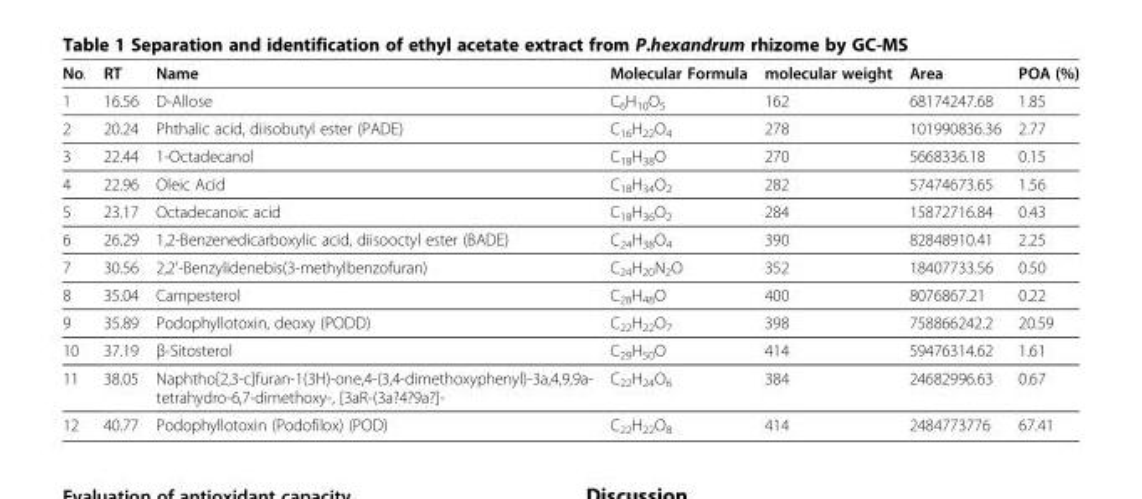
<table><thead><tr><td>No.</td><td>RT</td><td>Name</td><td>Molecular Formula</td><td>molecular weight</td><td>Area</td><td>POA (%)</td></tr></thead><tbody><tr><td>1</td><td>16.56</td><td>D-Allose</td><td>C<sub>6</sub>H<sub>10</sub>O<sub>5</sub></td><td>162</td><td>68174247.68</td><td>1.85</td></tr><tr><td>2</td><td>20.24</td><td>Phthalic acid, diisobutyl ester (PADE)</td><td>C<sub>16</sub>H<sub>22</sub>O<sub>4</sub></td><td>278</td><td>101990836.36</td><td>2.77</td></tr><tr><td>3</td><td>22.44</td><td>1-Octadecanol</td><td>C<sub>18</sub>H<sub>38</sub>O</td><td>270</td><td>5668336.18</td><td>0.15</td></tr><tr><td>4</td><td>22.96</td><td>Oleic Acid</td><td>C<sub>18</sub>H<sub>34</sub>O<sub>2</sub></td><td>282</td><td>57474673.65</td><td>1.56</td></tr><tr><td>5</td><td>23.17</td><td>Octadecanoic acid</td><td>C<sub>18</sub>H<sub>36</sub>O<sub>2</sub></td><td>284</td><td>15872716.84</td><td>0.43</td></tr><tr><td>6</td><td>26.29</td><td>1,2-Benzenedicarboxylic acid, diisooctyl ester (BADE)</td><td>C<sub>24</sub>H<sub>38</sub>O<sub>4</sub></td><td>390</td><td>82848910.41</td><td>2.25</td></tr><tr><td>7</td><td>30.56</td><td>2,2&#x27;-Benzylidenebis(3-methylbenzofuran)</td><td>C<sub>24</sub>H<sub>20</sub>N<sub>2</sub>O</td><td>352</td><td>18407733.56</td><td>0.50</td></tr><tr><td>8</td><td>35.04</td><td>Campesterol</td><td>C<sub>28</sub>H<sub>48</sub>O</td><td>400</td><td>8076867.21</td><td>0.22</td></tr><tr><td>9</td><td>35.89</td><td>Podophyllotoxin, deoxy (PODD)</td><td>C<sub>22</sub>H<sub>22</sub>O<sub>7</sub></td><td>398</td><td>758866242.2</td><td>20.59</td></tr><tr><td>10</td><td>37.19</td><td>β-Sitosterol</td><td>C<sub>29</sub>H<sub>50</sub>O</td><td>414</td><td>59476314.62</td><td>1.61</td></tr><tr><td>11</td><td>38.05</td><td>Naphtho[2,3-c]furan-1(3H)-one,4-(3,4-dimethoxyphenyl)-3a,4,9,9a- tetrahydro-6,7-dimethoxy-, [3aR-(3a?4?9a?]-</td><td>C<sub>22</sub>H<sub>24</sub>O<sub>6</sub></td><td>384</td><td>24682996.63</td><td>0.67</td></tr><tr><td>12</td><td>40.77</td><td>Podophyllotoxin (Podofilox) (POD)</td><td>C<sub>22</sub>H<sub>22</sub>O<sub>8</sub></td><td>414</td><td>2484773776</td><td>67.41</td></tr></tbody></table>